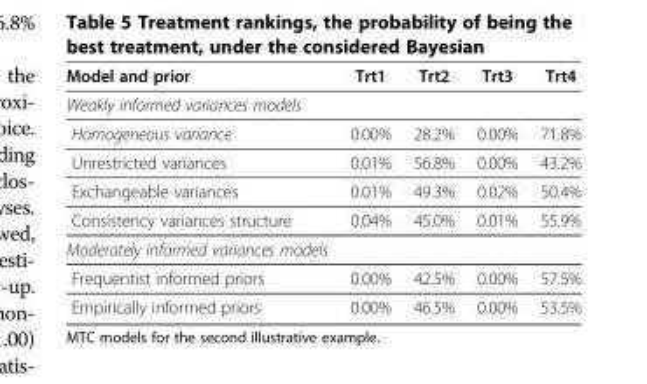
<table><thead><tr><td>Model and prior</td><td>Trt1</td><td>Trt2</td><td>Trt3</td><td>Trt4</td></tr></thead><tbody><tr><td colspan="5">Weakly informed variances models</td></tr><tr><td>Homogeneous variance</td><td>0.00%</td><td>28.2%</td><td>0.00%</td><td>71.8%</td></tr><tr><td>Unrestricted variances</td><td>0.01%</td><td>56.8%</td><td>0.00%</td><td>43.2%</td></tr><tr><td>Exchangeable variances</td><td>0.01%</td><td>49.3%</td><td>0.02%</td><td>50.4%</td></tr><tr><td>Consistency variances structure</td><td>0.04%</td><td>45.0%</td><td>0.01%</td><td>55.9%</td></tr><tr><td colspan="5">Moderately informed variances models</td></tr><tr><td>Frequentist informed priors</td><td>0.00%</td><td>42.5%</td><td>0.00%</td><td>57.5%</td></tr><tr><td>Empirically informed priors</td><td>0.00%</td><td>46.5%</td><td>0.00%</td><td>53.5%</td></tr></tbody></table>